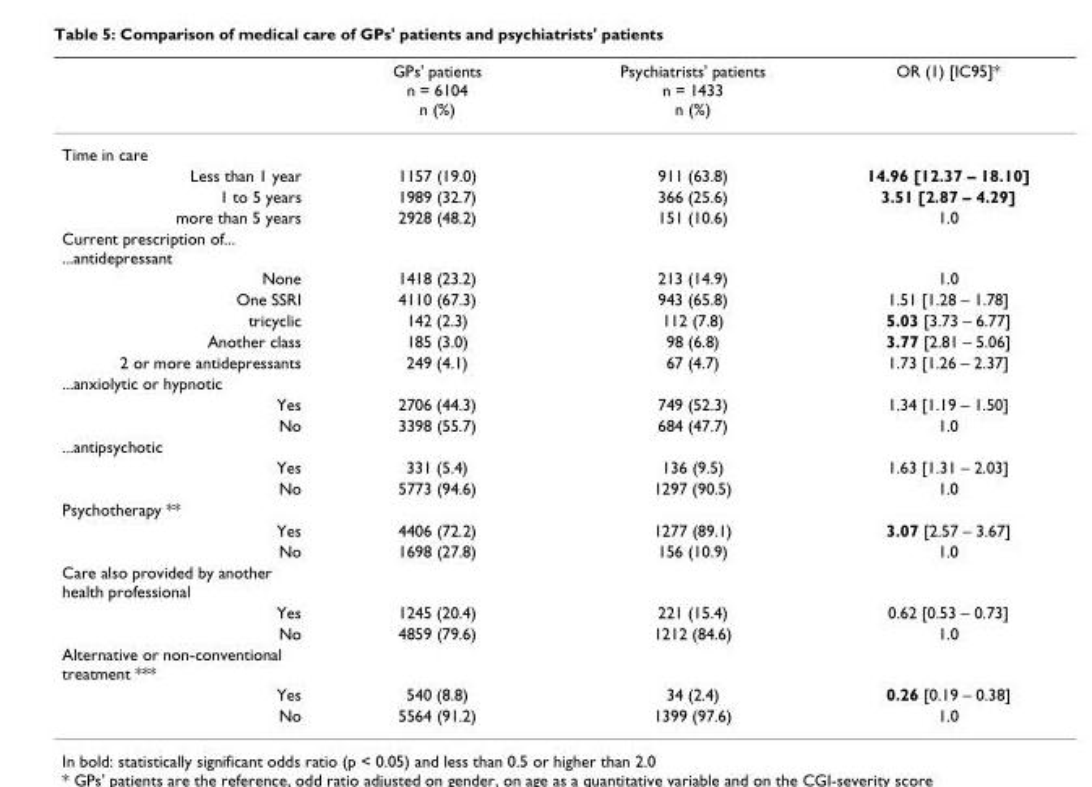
<table><thead><tr><td></td><td>GPs&#x27; patients n = 6104 n (%)</td><td>Psychiatrists&#x27; patients n = 1433 n (%)</td><td>OR (1) [IC95]*</td></tr></thead><tbody><tr><td colspan="4">Time in care</td></tr><tr><td>Less than 1 year</td><td>1157 (19.0)</td><td>911 (63.8)</td><td>14.96 [12.37 – 18.10]</td></tr><tr><td>1 to 5 years</td><td>1989 (32.7)</td><td>366 (25.6)</td><td>3.51 [2.87 – 4.29]</td></tr><tr><td>more than 5 years</td><td>2928 (48.2)</td><td>151 (10.6)</td><td>1.0</td></tr><tr><td colspan="4">Current prescription of... ...antidepressant</td></tr><tr><td>None</td><td>1418 (23.2)</td><td>213 (14.9)</td><td>1.0</td></tr><tr><td>One SSRI</td><td>4110 (67.3)</td><td>943 (65.8)</td><td>1.51 [1.28 – 1.78]</td></tr><tr><td>tricyclic</td><td>142 (2.3)</td><td>112 (7.8)</td><td>5.03 [3.73 – 6.77]</td></tr><tr><td>Another class</td><td>185 (3.0)</td><td>98 (6.8)</td><td>3.77 [2.81 – 5.06]</td></tr><tr><td>2 or more antidepressants</td><td>249 (4.1)</td><td>67 (4.7)</td><td>1.73 [1.26 – 2.37]</td></tr><tr><td colspan="4">...anxiolytic or hypnotic</td></tr><tr><td>Yes</td><td>2706 (44.3)</td><td>749 (52.3)</td><td>1.34 [1.19 – 1.50]</td></tr><tr><td>No</td><td>3398 (55.7)</td><td>684 (47.7)</td><td>1.0</td></tr><tr><td colspan="4">...antipsychotic</td></tr><tr><td>Yes</td><td>331 (5.4)</td><td>136 (9.5)</td><td>1.63 [1.31 – 2.03]</td></tr><tr><td>No</td><td>5773 (94.6)</td><td>1297 (90.5)</td><td>1.0</td></tr><tr><td colspan="4">Psychotherapy **</td></tr><tr><td>Yes</td><td>4406 (72.2)</td><td>1277 (89.1)</td><td>3.07 [2.57 – 3.67]</td></tr><tr><td>No</td><td>1698 (27.8)</td><td>156 (10.9)</td><td>1.0</td></tr><tr><td colspan="4">Care also provided by another health professional</td></tr><tr><td>Yes</td><td>1245 (20.4)</td><td>221 (15.4)</td><td>0.62 [0.53 – 0.73]</td></tr><tr><td>No</td><td>4859 (79.6)</td><td>1212 (84.6)</td><td>1.0</td></tr><tr><td colspan="4">Alternative or non-conventional treatment ***</td></tr><tr><td>Yes</td><td>540 (8.8)</td><td>34 (2.4)</td><td>0.26 [0.19 – 0.38]</td></tr><tr><td>No</td><td>5564 (91.2)</td><td>1399 (97.6)</td><td>1.0</td></tr></tbody></table>